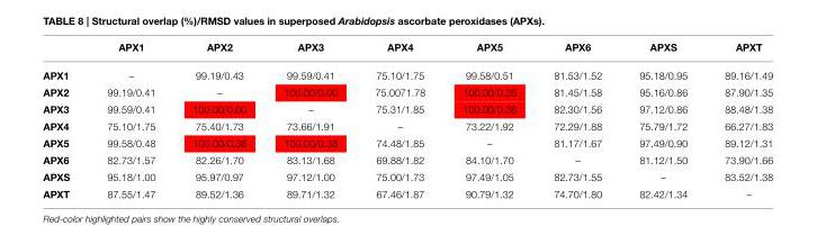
<table><thead><tr><td></td><td>APX1</td><td>APX2</td><td>APX3</td><td>APX4</td><td>APX5</td><td>APX6</td><td>APXS</td><td>APXT</td></tr></thead><tbody><tr><td>APX1</td><td>–</td><td>99.19/0.43</td><td>99.59/0.41</td><td>75.10/1.75</td><td>99.58/0.51</td><td>81.53/1.52</td><td>95.18/0.95</td><td>89.16/1.49</td></tr><tr><td>APX2</td><td>99.19/0.41</td><td>–</td><td>100.00/0.00</td><td>75.0071.78</td><td>100.00/0.38</td><td>81.45/1.58</td><td>95.16/0.86</td><td>87.90/1.35</td></tr><tr><td>APX3</td><td>99.59/0.41</td><td>100.00/0.00</td><td>–</td><td>75.31/1.85</td><td>100.00/0.38</td><td>82.30/1.56</td><td>97.12/0.86</td><td>88.48/1.38</td></tr><tr><td>APX4</td><td>75.10/1.75</td><td>75.40/1.73</td><td>73.66/1.91</td><td>–</td><td>73.22/1.92</td><td>72.29/1.88</td><td>75.79/1.72</td><td>66.27/1.83</td></tr><tr><td>APX5</td><td>99.58/0.48</td><td>100.00/0.38</td><td>100.00/0.38</td><td>74.48/1.85</td><td>–</td><td>81.17/1.67</td><td>97.49/0.90</td><td>89.12/1.31</td></tr><tr><td>APX6</td><td>82.73/1.57</td><td>82.26/1.70</td><td>83.13/1.68</td><td>69.88/1.82</td><td>84.10/1.70</td><td>–</td><td>81.12/1.50</td><td>73.90/1.66</td></tr><tr><td>APXS</td><td>95.18/1.00</td><td>95.97/0.97</td><td>97.12/1.00</td><td>75.00/1.73</td><td>97.49/1.05</td><td>82.73/1.55</td><td>–</td><td>83.52/1.38</td></tr><tr><td>APXT</td><td>87.55/1.47</td><td>89.52/1.36</td><td>89.71/1.32</td><td>67.46/1.87</td><td>90.79/1.32</td><td>74.70/1.80</td><td>82.42/1.34</td><td>–</td></tr></tbody></table>